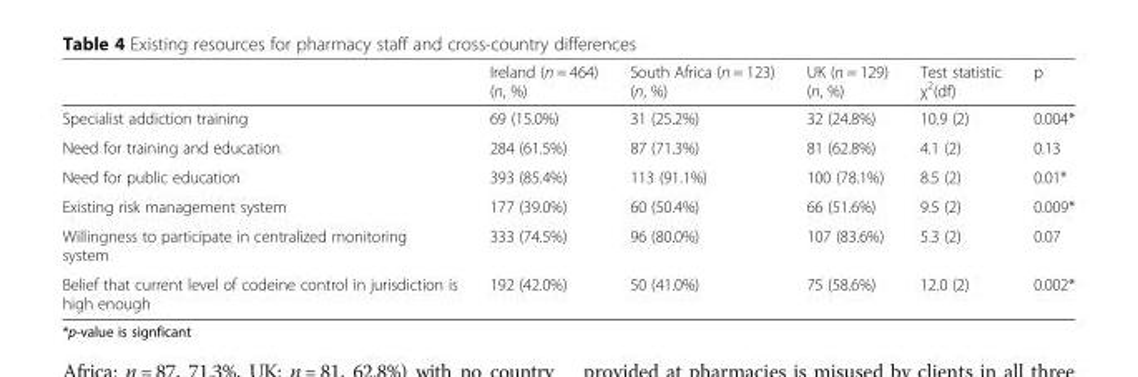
<table><thead><tr><td></td><td>Ireland (n = 464) (n, %)</td><td>South Africa (n = 123) (n, %)</td><td>UK (n = 129) (n, %)</td><td>Test statistic χ<sup>2</sup>(df)</td><td>p</td></tr></thead><tbody><tr><td>Specialist addiction training</td><td>69 (15.0%)</td><td>31 (25.2%)</td><td>32 (24.8%)</td><td>10.9 (2)</td><td>0.004*</td></tr><tr><td>Need for training and education</td><td>284 (61.5%)</td><td>87 (71.3%)</td><td>81 (62.8%)</td><td>4.1 (2)</td><td>0.13</td></tr><tr><td>Need for public education</td><td>393 (85.4%)</td><td>113 (91.1%)</td><td>100 (78.1%)</td><td>8.5 (2)</td><td>0.01*</td></tr><tr><td>Existing risk management system</td><td>177 (39.0%)</td><td>60 (50.4%)</td><td>66 (51.6%)</td><td>9.5 (2)</td><td>0.009*</td></tr><tr><td>Willingness to participate in centralized monitoring system</td><td>333 (74.5%)</td><td>96 (80.0%)</td><td>107 (83.6%)</td><td>5.3 (2)</td><td>0.07</td></tr><tr><td>Belief that current level of codeine control in jurisdiction is high enough</td><td>192 (42.0%)</td><td>50 (41.0%)</td><td>75 (58.6%)</td><td>12.0 (2)</td><td>0.002*</td></tr></tbody></table>